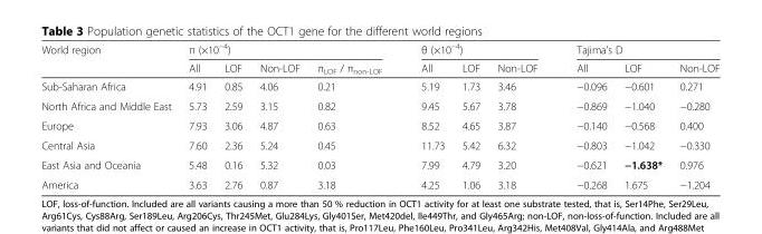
<table><thead><tr><td rowspan="2">World region</td><td colspan="4">π (×10<sup>−4</sup>)</td><td colspan="3">θ (×10<sup>−4</sup>)</td><td colspan="3">Tajima’s D</td></tr><tr><td>All</td><td>LOF</td><td>Non-LOF</td><td>π<sub>LOF</sub> / π<sub>non-LOF</sub></td><td>All</td><td>LOF</td><td>Non-LOF</td><td>All</td><td>LOF</td><td>Non-LOF</td></tr></thead><tbody><tr><td>Sub-Saharan Africa</td><td>4.91</td><td>0.85</td><td>4.06</td><td>0.21</td><td>5.19</td><td>1.73</td><td>3.46</td><td>−0.096</td><td>−0.601</td><td>0.271</td></tr><tr><td>North Africa and Middle East</td><td>5.73</td><td>2.59</td><td>3.15</td><td>0.82</td><td>9.45</td><td>5.67</td><td>3.78</td><td>−0.869</td><td>−1.040</td><td>−0.280</td></tr><tr><td>Europe</td><td>7.93</td><td>3.06</td><td>4.87</td><td>0.63</td><td>8.52</td><td>4.65</td><td>3.87</td><td>−0.140</td><td>−0.568</td><td>0.400</td></tr><tr><td>Central Asia</td><td>7.60</td><td>2.36</td><td>5.24</td><td>0.45</td><td>11.73</td><td>5.42</td><td>6.32</td><td>−0.803</td><td>−1.042</td><td>−0.330</td></tr><tr><td>East Asia and Oceania</td><td>5.48</td><td>0.16</td><td>5.32</td><td>0.03</td><td>7.99</td><td>4.79</td><td>3.20</td><td>−0.621</td><td>−1.638*</td><td>0.976</td></tr><tr><td>America</td><td>3.63</td><td>2.76</td><td>0.87</td><td>3.18</td><td>4.25</td><td>1.06</td><td>3.18</td><td>−0.268</td><td>1.675</td><td>−1.204</td></tr></tbody></table>